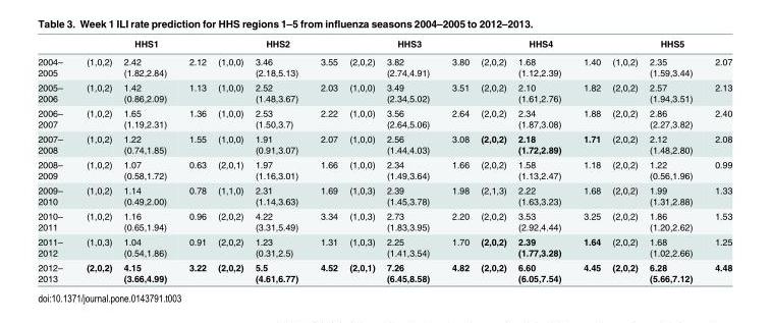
<table><thead><tr><td rowspan="2">2004– 2005</td><td colspan="3">HHS1</td><td colspan="3">HHS2</td><td colspan="3">HHS3</td><td colspan="3">HHS4</td><td colspan="3">HHS5</td></tr><tr><td>(1,0,2)</td><td>2.42 (1.82,2.84)</td><td>2.12</td><td>(1,0,0)</td><td>3.46 (2.18,5.13)</td><td>3.55</td><td>(2,0,2)</td><td>3.82 (2.74,4.91)</td><td>3.80</td><td>(2,0,2)</td><td>1.68 (1.12,2.39)</td><td>1.40</td><td>(1,0,2)</td><td>2.35 (1.59,3.44)</td><td>2.07</td></tr></thead><tbody><tr><td>2005– 2006</td><td>(1,0,2)</td><td>1.42 (0.86,2.09)</td><td>1.13</td><td>(1,0,0)</td><td>2.52 (1.48,3.67)</td><td>2.03</td><td>(1,0,0)</td><td>3.49 (2.34,5.02)</td><td>3.51</td><td>(2,0,2)</td><td>2.10 (1.61,2.76)</td><td>1.82</td><td>(2,0,2)</td><td>2.57 (1.94,3.51)</td><td>2.13</td></tr><tr><td>2006– 2007</td><td>(1,0,2)</td><td>1.65 (1.19,2.31)</td><td>1.36</td><td>(1,0,0)</td><td>2.53 (1.50,3.7)</td><td>2.22</td><td>(1,0,0)</td><td>3.56 (2.64,5.06)</td><td>2.64</td><td>(2,0,2)</td><td>2.34 (1.87,3.08)</td><td>1.88</td><td>(2,0,2)</td><td>2.86 (2.27,3.82)</td><td>2.40</td></tr><tr><td>2007– 2008</td><td>(1,0,2)</td><td>1.22 (0.74,1.85)</td><td>1.55</td><td>(1,0,0)</td><td>1.91 (0.91,3.07)</td><td>2.07</td><td>(1,0,0)</td><td>2.56 (1.44,4.03)</td><td>3.08</td><td>(2,0,2)</td><td>2.18 (1.72,2.89)</td><td>1.71</td><td>(2,0,2)</td><td>2.12 (1.48,2.80)</td><td>2.08</td></tr><tr><td>2008– 2009</td><td>(1,0,2)</td><td>1.07 (0.58,1.72)</td><td>0.63</td><td>(2,0,1)</td><td>1.97 (1.16,3.01)</td><td>1.66</td><td>(1,0,0)</td><td>2.34 (1.49,3.64)</td><td>1.66</td><td>(2,0,2)</td><td>1.58 (1.13,2.47)</td><td>1.18</td><td>(2,0,2)</td><td>1.22 (0.56,1.96)</td><td>0.99</td></tr><tr><td>2009– 2010</td><td>(1,0,2)</td><td>1.14 (0.49,2.00)</td><td>0.78</td><td>(1,1,0)</td><td>2.31 (1.14,3.63)</td><td>1.69</td><td>(1,0,3)</td><td>2.39 (1.45,3.78)</td><td>1.98</td><td>(2,1,3)</td><td>2.22 (1.63,3.23)</td><td>1.68</td><td>(2,0,2)</td><td>1.99 (1.31,2.88)</td><td>1.33</td></tr><tr><td>2010– 2011</td><td>(1,0,2)</td><td>1.16 (0.65,1.94)</td><td>0.96</td><td>(2,0,2)</td><td>4.22 (3.31,5.49)</td><td>3.34</td><td>(1,0,3)</td><td>2.73 (1.83,3.95)</td><td>2.20</td><td>(2,0,2)</td><td>3.53 (2.92,4.44)</td><td>3.25</td><td>(2,0,2)</td><td>1.86 (1.20,2.62)</td><td>1.53</td></tr><tr><td>2011– 2012</td><td>(1,0,3)</td><td>1.04 (0.54,1.86)</td><td>0.91</td><td>(2,0,2)</td><td>1.23 (0.31,2.5)</td><td>1.31</td><td>(1,0,3)</td><td>2.25 (1.41,3.54)</td><td>1.70</td><td>(2,0,2)</td><td>2.39 (1.77,3.28)</td><td>1.64</td><td>(2,0,2)</td><td>1.68 (1.02,2.66)</td><td>1.25</td></tr><tr><td>2012– 2013</td><td>(2,0,2)</td><td>4.15 (3.66,4.99)</td><td>3.22</td><td>(2,0,2)</td><td>5.5 (4.61,6.77)</td><td>4.52</td><td>(2,0,1)</td><td>7.26 (6.45,8.58)</td><td>4.82</td><td>(2,0,2)</td><td>6.60 (6.05,7.54)</td><td>4.45</td><td>(2,0,2)</td><td>6.28 (5.66,7.12)</td><td>4.48</td></tr></tbody></table>